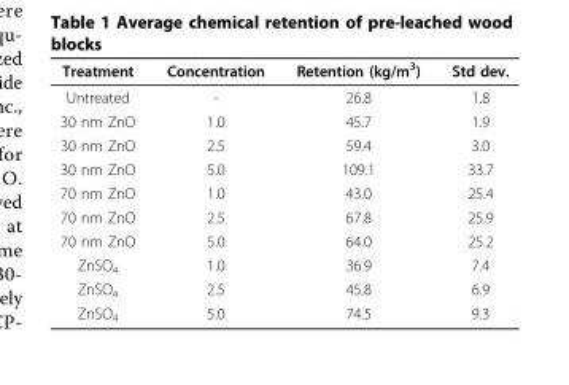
<table><thead><tr><td>Treatment</td><td>Concentration</td><td>Retention (kg/m<sup>3</sup>)</td><td>Std dev.</td></tr></thead><tbody><tr><td>Untreated</td><td>-</td><td>26.8</td><td>1.8</td></tr><tr><td>30 nm ZnO</td><td>1.0</td><td>45.7</td><td>1.9</td></tr><tr><td>30 nm ZnO</td><td>2.5</td><td>59.4</td><td>3.0</td></tr><tr><td>30 nm ZnO</td><td>5.0</td><td>109.1</td><td>33.7</td></tr><tr><td>70 nm ZnO</td><td>1.0</td><td>43.0</td><td>25.4</td></tr><tr><td>70 nm ZnO</td><td>2.5</td><td>67.8</td><td>25.9</td></tr><tr><td>70 nm ZnO</td><td>5.0</td><td>64.0</td><td>25.2</td></tr><tr><td>ZnSO<sub>4</sub></td><td>1.0</td><td>36.9</td><td>7.4</td></tr><tr><td>ZnSO<sub>4</sub></td><td>2.5</td><td>45.8</td><td>6.9</td></tr><tr><td>ZnSO<sub>4</sub></td><td>5.0</td><td>74.5</td><td>9.3</td></tr></tbody></table>